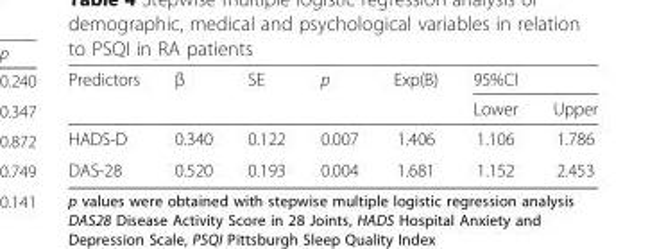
<table><thead><tr><td rowspan="2">Predictors</td><td rowspan="2">β</td><td rowspan="2">SE</td><td rowspan="2">p</td><td rowspan="2">Exp(B)</td><td colspan="2">95%CI</td></tr><tr><td>Lower</td><td>Upper</td></tr></thead><tbody><tr><td>HADS-D</td><td>0.340</td><td>0.122</td><td>0.007</td><td>1.406</td><td>1.106</td><td>1.786</td></tr><tr><td>DAS-28</td><td>0.520</td><td>0.193</td><td>0.004</td><td>1.681</td><td>1.152</td><td>2.453</td></tr></tbody></table>